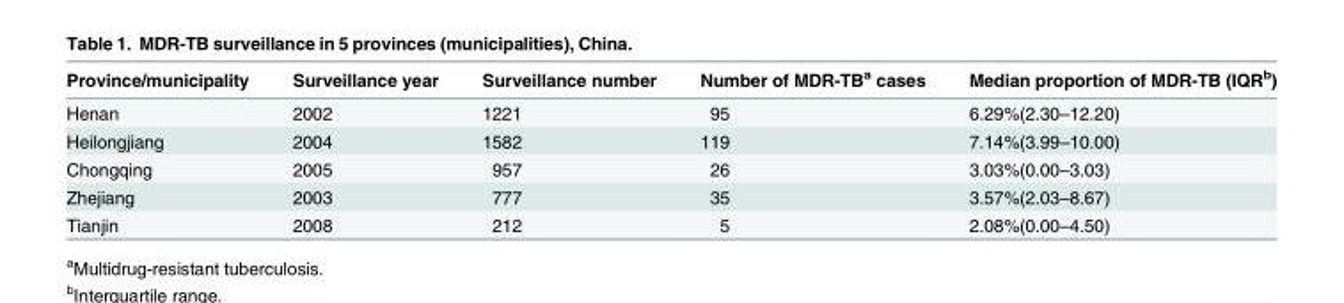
<table><thead><tr><td>Province/municipality</td><td>Surveillance year</td><td>Surveillance number</td><td>Number of MDR-TB<sup>a</sup> cases</td><td>Median proportion of MDR-TB (IQR<sup>b</sup>)</td></tr></thead><tbody><tr><td>Henan</td><td>2002</td><td>1221</td><td>95</td><td>6.29%(2.30–12.20)</td></tr><tr><td>Heilongjiang</td><td>2004</td><td>1582</td><td>119</td><td>7.14%(3.99–10.00)</td></tr><tr><td>Chongqing</td><td>2005</td><td>957</td><td>26</td><td>3.03%(0.00–3.03)</td></tr><tr><td>Zhejiang</td><td>2003</td><td>777</td><td>35</td><td>3.57%(2.03–8.67)</td></tr><tr><td>Tianjin</td><td>2008</td><td>212</td><td>5</td><td>2.08%(0.00–4.50)</td></tr></tbody></table>